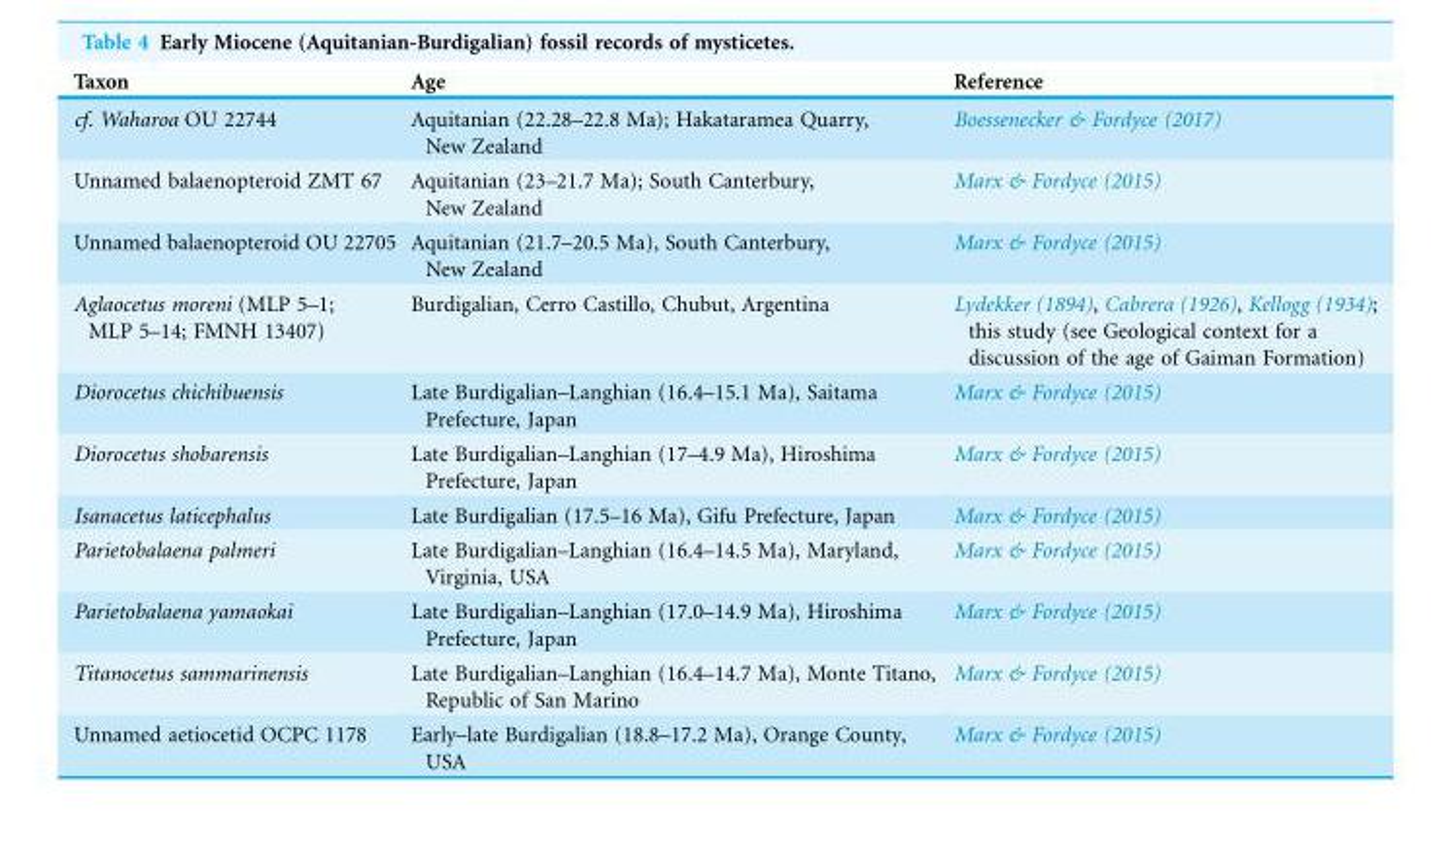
<table><thead><tr><td>Taxon</td><td>Age</td><td>Reference</td></tr></thead><tbody><tr><td>cf. Waharoa OU 22744</td><td>Aquitanian (22.28–22.8 Ma); Hakataramea Quarry, New Zealand</td><td>Boessenecker &amp; Fordyce (2017)</td></tr><tr><td>Unnamed balaenopteroid ZMT 67</td><td>Aquitanian (23–21.7 Ma); South Canterbury, New Zealand</td><td>Marx &amp; Fordyce (2015)</td></tr><tr><td>Unnamed balaenopteroid OU 22705</td><td>Aquitanian (21.7–20.5 Ma), South Canterbury, New Zealand</td><td>Marx &amp; Fordyce (2015)</td></tr><tr><td>Aglaocetus moreni (MLP 5–1; MLP 5–14; FMNH 13407)</td><td>Burdigalian, Cerro Castillo, Chubut, Argentina</td><td>Lydekker (1894), Cabrera (1926), Kellogg (1934); this study (see Geological context for a discussion of the age of Gaiman Formation)</td></tr><tr><td>Diorocetus chichibuensis</td><td>Late Burdigalian–Langhian (16.4–15.1 Ma), Saitama Prefecture, Japan</td><td>Marx &amp; Fordyce (2015)</td></tr><tr><td>Diorocetus shobarensis</td><td>Late Burdigalian–Langhian (17–4.9 Ma), Hiroshima Prefecture, Japan</td><td>Marx &amp; Fordyce (2015)</td></tr><tr><td>Isanacetus laticephalus</td><td>Late Burdigalian (17.5–16 Ma), Gifu Prefecture, Japan</td><td>Marx &amp; Fordyce (2015)</td></tr><tr><td>Parietobalaena palmeri</td><td>Late Burdigalian–Langhian (16.4–14.5 Ma), Maryland, Virginia, USA</td><td>Marx &amp; Fordyce (2015)</td></tr><tr><td>Parietobalaena yamaokai</td><td>Late Burdigalian–Langhian (17.0–14.9 Ma), Hiroshima Prefecture, Japan</td><td>Marx &amp; Fordyce (2015)</td></tr><tr><td>Titanocetus sammarinensis</td><td>Late Burdigalian–Langhian (16.4–14.7 Ma), Monte Titano, Republic of San Marino</td><td>Marx &amp; Fordyce (2015)</td></tr><tr><td>Unnamed aetiocetid OCPC 1178</td><td>Early–late Burdigalian (18.8–17.2 Ma), Orange County, USA</td><td>Marx &amp; Fordyce (2015)</td></tr></tbody></table>